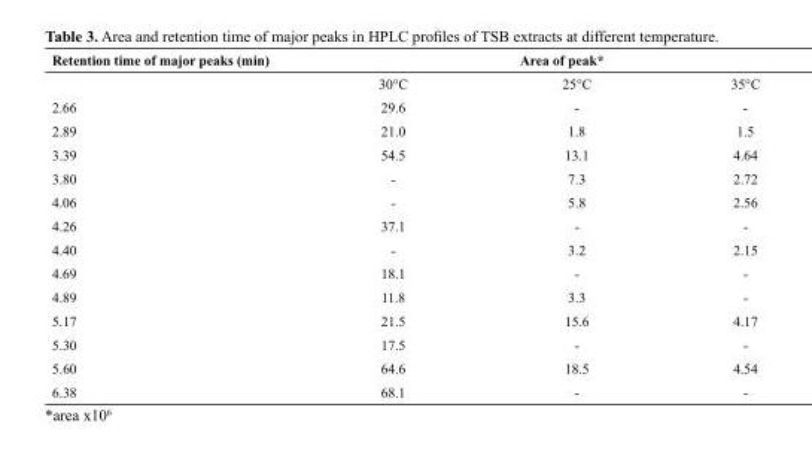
<table><thead><tr><td rowspan="2">Retention time of major peaks (min)</td><td colspan="3">Area of peak*</td></tr><tr><td>30°C</td><td>25°C</td><td>35°C</td></tr></thead><tbody><tr><td>2.66</td><td>29.6</td><td>-</td><td>-</td></tr><tr><td>2.89</td><td>21.0</td><td>1.8</td><td>1.5</td></tr><tr><td>3.39</td><td>54.5</td><td>13.1</td><td>4.64</td></tr><tr><td>3.80</td><td>-</td><td>7.3</td><td>2.72</td></tr><tr><td>4.06</td><td>-</td><td>5.8</td><td>2.56</td></tr><tr><td>4.26</td><td>37.1</td><td>-</td><td>-</td></tr><tr><td>4.40</td><td>-</td><td>3.2</td><td>2.15</td></tr><tr><td>4.69</td><td>18.1</td><td>-</td><td>-</td></tr><tr><td>4.89</td><td>11.8</td><td>3.3</td><td>-</td></tr><tr><td>5.17</td><td>21.5</td><td>15.6</td><td>4.17</td></tr><tr><td>5.30</td><td>17.5</td><td>-</td><td>-</td></tr><tr><td>5.60</td><td>64.6</td><td>18.5</td><td>4.54</td></tr><tr><td>6.38</td><td>68.1</td><td>-</td><td>-</td></tr></tbody></table>